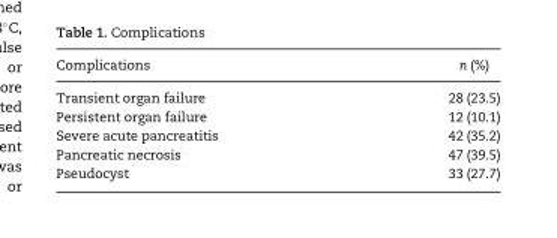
<table><thead><tr><td>Complications</td><td>n (%)</td></tr></thead><tbody><tr><td>Transient organ failure</td><td>28 (23.5)</td></tr><tr><td>Persistent organ failure</td><td>12 (10.1)</td></tr><tr><td>Severe acute pancreatitis</td><td>42 (35.2)</td></tr><tr><td>Pancreatic necrosis</td><td>47 (39.5)</td></tr><tr><td>Pseudocyst</td><td>33 (27.7)</td></tr></tbody></table>